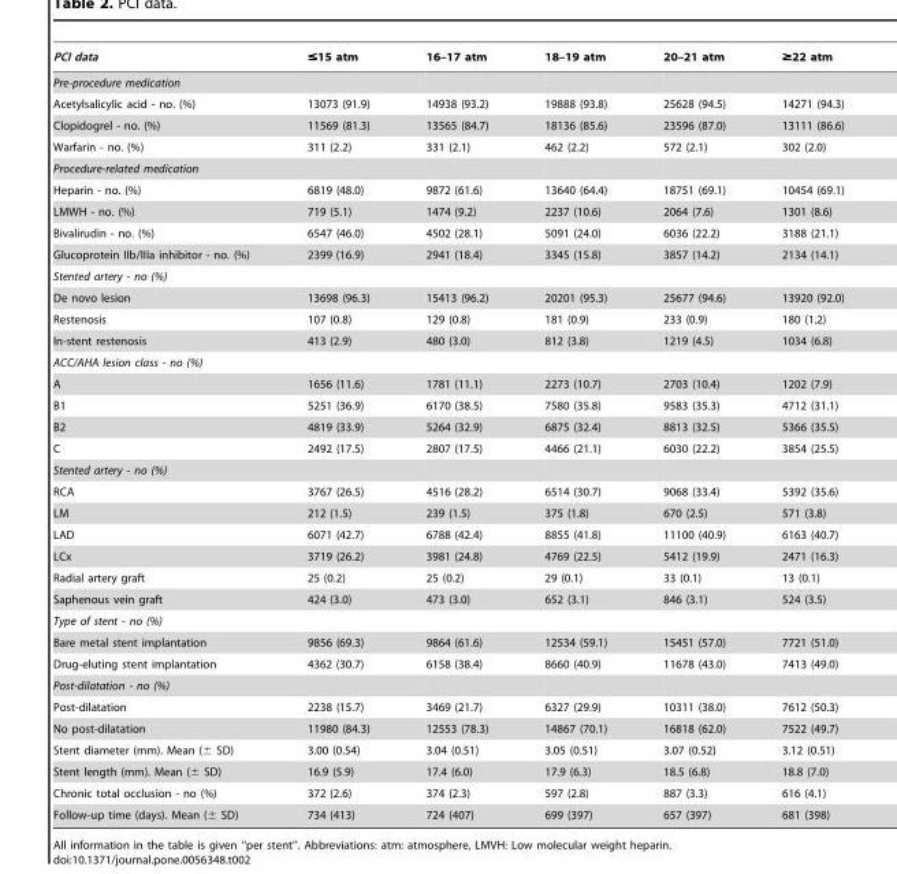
<table><thead><tr><td>PCI data</td><td>≤15 atm</td><td>16–17 atm</td><td>18–19 atm</td><td>20–21 atm</td><td>≥22 atm</td></tr></thead><tbody><tr><td colspan="6">Pre-procedure medication</td></tr><tr><td>Acetylsalicylic acid - no. (%)</td><td>13073 (91.9)</td><td>14938 (93.2)</td><td>19888 (93.8)</td><td>25628 (94.5)</td><td>14271 (94.3)</td></tr><tr><td>Clopidogrel - no. (%)</td><td>11569 (81.3)</td><td>13565 (84.7)</td><td>18136 (85.6)</td><td>23596 (87.0)</td><td>13111 (86.6)</td></tr><tr><td>Warfarin - no. (%)</td><td>311 (2.2)</td><td>331 (2.1)</td><td>462 (2.2)</td><td>572 (2.1)</td><td>302 (2.0)</td></tr><tr><td colspan="6">Procedure-related medication</td></tr><tr><td>Heparin - no. (%)</td><td>6819 (48.0)</td><td>9872 (61.6)</td><td>13640 (64.4)</td><td>18751 (69.1)</td><td>10454 (69.1)</td></tr><tr><td>LMWH - no. (%)</td><td>719 (5.1)</td><td>1474 (9.2)</td><td>2237 (10.6)</td><td>2064 (7.6)</td><td>1301 (8.6)</td></tr><tr><td>Bivalirudin - no. (%)</td><td>6547 (46.0)</td><td>4502 (28.1)</td><td>5091 (24.0)</td><td>6036 (22.2)</td><td>3188 (21.1)</td></tr><tr><td>Glucoprotein IIb/IIIa inhibitor - no. (%)</td><td>2399 (16.9)</td><td>2941 (18.4)</td><td>3345 (15.8)</td><td>3857 (14.2)</td><td>2134 (14.1)</td></tr><tr><td colspan="6">Stented artery - no (%)</td></tr><tr><td>De novo lesion</td><td>13698 (96.3)</td><td>15413 (96.2)</td><td>20201 (95.3)</td><td>25677 (94.6)</td><td>13920 (92.0)</td></tr><tr><td>Restenosis</td><td>107 (0.8)</td><td>129 (0.8)</td><td>181 (0.9)</td><td>233 (0.9)</td><td>180 (1.2)</td></tr><tr><td>In-stent restenosis</td><td>413 (2.9)</td><td>480 (3.0)</td><td>812 (3.8)</td><td>1219 (4.5)</td><td>1034 (6.8)</td></tr><tr><td colspan="6">ACC/AHA lesion class - no (%)</td></tr><tr><td>A</td><td>1656 (11.6)</td><td>1781 (11.1)</td><td>2273 (10.7)</td><td>2703 (10.4)</td><td>1202 (7.9)</td></tr><tr><td>B1</td><td>5251 (36.9)</td><td>6170 (38.5)</td><td>7580 (35.8)</td><td>9583 (35.3)</td><td>4712 (31.1)</td></tr><tr><td>B2</td><td>4819 (33.9)</td><td>5264 (32.9)</td><td>6875 (32.4)</td><td>8813 (32.5)</td><td>5366 (35.5)</td></tr><tr><td>C</td><td>2492 (17.5)</td><td>2807 (17.5)</td><td>4466 (21.1)</td><td>6030 (22.2)</td><td>3854 (25.5)</td></tr><tr><td colspan="6">Stented artery - no (%)</td></tr><tr><td>RCA</td><td>3767 (26.5)</td><td>4516 (28.2)</td><td>6514 (30.7)</td><td>9068 (33.4)</td><td>5392 (35.6)</td></tr><tr><td>LM</td><td>212 (1.5)</td><td>239 (1.5)</td><td>375 (1.8)</td><td>670 (2.5)</td><td>571 (3.8)</td></tr><tr><td>LAD</td><td>6071 (42.7)</td><td>6788 (42.4)</td><td>8855 (41.8)</td><td>11100 (40.9)</td><td>6163 (40.7)</td></tr><tr><td>LCx</td><td>3719 (26.2)</td><td>3981 (24.8)</td><td>4769 (22.5)</td><td>5412 (19.9)</td><td>2471 (16.3)</td></tr><tr><td>Radial artery graft</td><td>25 (0.2)</td><td>25 (0.2)</td><td>29 (0.1)</td><td>33 (0.1)</td><td>13 (0.1)</td></tr><tr><td>Saphenous vein graft</td><td>424 (3.0)</td><td>473 (3.0)</td><td>652 (3.1)</td><td>846 (3.1)</td><td>524 (3.5)</td></tr><tr><td colspan="6">Type of stent - no (%)</td></tr><tr><td>Bare metal stent implantation</td><td>9856 (69.3)</td><td>9864 (61.6)</td><td>12534 (59.1)</td><td>15451 (57.0)</td><td>7721 (51.0)</td></tr><tr><td>Drug-eluting stent implantation</td><td>4362 (30.7)</td><td>6158 (38.4)</td><td>8660 (40.9)</td><td>11678 (43.0)</td><td>7413 (49.0)</td></tr><tr><td colspan="6">Post-dilatation - no (%)</td></tr><tr><td>Post-dilatation</td><td>2238 (15.7)</td><td>3469 (21.7)</td><td>6327 (29.9)</td><td>10311 (38.0)</td><td>7612 (50.3)</td></tr><tr><td>No post-dilatation</td><td>11980 (84.3)</td><td>12553 (78.3)</td><td>14867 (70.1)</td><td>16818 (62.0)</td><td>7522 (49.7)</td></tr><tr><td>Stent diameter (mm). Mean (± SD)</td><td>3.00 (0.54)</td><td>3.04 (0.51)</td><td>3.05 (0.51)</td><td>3.07 (0.52)</td><td>3.12 (0.51)</td></tr><tr><td>Stent length (mm). Mean (± SD)</td><td>16.9 (5.9)</td><td>17.4 (6.0)</td><td>17.9 (6.3)</td><td>18.5 (6.8)</td><td>18.8 (7.0)</td></tr><tr><td>Chronic total occlusion - no (%)</td><td>372 (2.6)</td><td>374 (2.3)</td><td>597 (2.8)</td><td>887 (3.3)</td><td>616 (4.1)</td></tr><tr><td>Follow-up time (days). Mean (± SD)</td><td>734 (413)</td><td>724 (407)</td><td>699 (397)</td><td>657 (397)</td><td>681 (398)</td></tr></tbody></table>